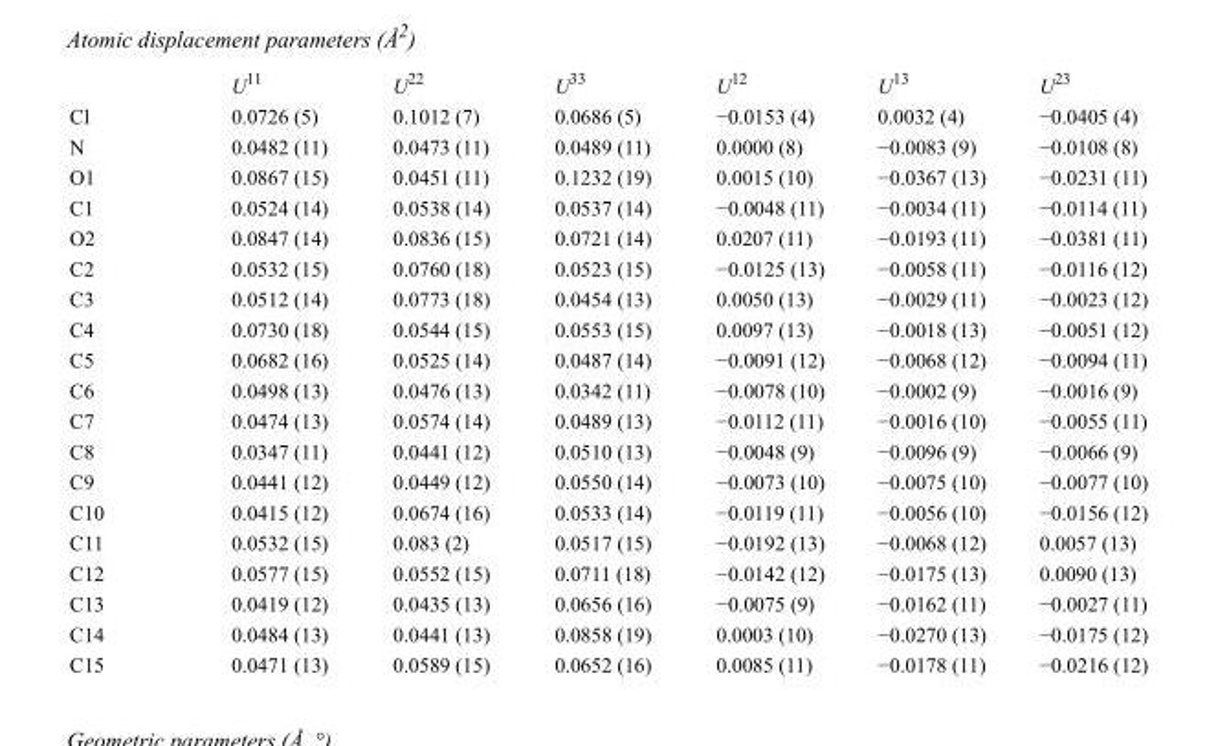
<table><thead><tr><td></td><td>U<sup>11</sup></td><td>U<sup>22</sup></td><td>U<sup>33</sup></td><td>U<sup>12</sup></td><td>U<sup>13</sup></td><td>U<sup>23</sup></td></tr></thead><tbody><tr><td>Cl</td><td>0.0726 (5)</td><td>0.1012 (7)</td><td>0.0686 (5)</td><td>−0.0153 (4)</td><td>0.0032 (4)</td><td>−0.0405 (4)</td></tr><tr><td>N</td><td>0.0482 (11)</td><td>0.0473 (11)</td><td>0.0489 (11)</td><td>0.0000 (8)</td><td>−0.0083 (9)</td><td>−0.0108 (8)</td></tr><tr><td>O1</td><td>0.0867 (15)</td><td>0.0451 (11)</td><td>0.1232 (19)</td><td>0.0015 (10)</td><td>−0.0367 (13)</td><td>−0.0231 (11)</td></tr><tr><td>C1</td><td>0.0524 (14)</td><td>0.0538 (14)</td><td>0.0537 (14)</td><td>−0.0048 (11)</td><td>−0.0034 (11)</td><td>−0.0114 (11)</td></tr><tr><td>O2</td><td>0.0847 (14)</td><td>0.0836 (15)</td><td>0.0721 (14)</td><td>0.0207 (11)</td><td>−0.0193 (11)</td><td>−0.0381 (11)</td></tr><tr><td>C2</td><td>0.0532 (15)</td><td>0.0760 (18)</td><td>0.0523 (15)</td><td>−0.0125 (13)</td><td>−0.0058 (11)</td><td>−0.0116 (12)</td></tr><tr><td>C3</td><td>0.0512 (14)</td><td>0.0773 (18)</td><td>0.0454 (13)</td><td>0.0050 (13)</td><td>−0.0029 (11)</td><td>−0.0023 (12)</td></tr><tr><td>C4</td><td>0.0730 (18)</td><td>0.0544 (15)</td><td>0.0553 (15)</td><td>0.0097 (13)</td><td>−0.0018 (13)</td><td>−0.0051 (12)</td></tr><tr><td>C5</td><td>0.0682 (16)</td><td>0.0525 (14)</td><td>0.0487 (14)</td><td>−0.0091 (12)</td><td>−0.0068 (12)</td><td>−0.0094 (11)</td></tr><tr><td>C6</td><td>0.0498 (13)</td><td>0.0476 (13)</td><td>0.0342 (11)</td><td>−0.0078 (10)</td><td>−0.0002 (9)</td><td>−0.0016 (9)</td></tr><tr><td>C7</td><td>0.0474 (13)</td><td>0.0574 (14)</td><td>0.0489 (13)</td><td>−0.0112 (11)</td><td>−0.0016 (10)</td><td>−0.0055 (11)</td></tr><tr><td>C8</td><td>0.0347 (11)</td><td>0.0441 (12)</td><td>0.0510 (13)</td><td>−0.0048 (9)</td><td>−0.0096 (9)</td><td>−0.0066 (9)</td></tr><tr><td>C9</td><td>0.0441 (12)</td><td>0.0449 (12)</td><td>0.0550 (14)</td><td>−0.0073 (10)</td><td>−0.0075 (10)</td><td>−0.0077 (10)</td></tr><tr><td>C10</td><td>0.0415 (12)</td><td>0.0674 (16)</td><td>0.0533 (14)</td><td>−0.0119 (11)</td><td>−0.0056 (10)</td><td>−0.0156 (12)</td></tr><tr><td>C11</td><td>0.0532 (15)</td><td>0.083 (2)</td><td>0.0517 (15)</td><td>−0.0192 (13)</td><td>−0.0068 (12)</td><td>0.0057 (13)</td></tr><tr><td>C12</td><td>0.0577 (15)</td><td>0.0552 (15)</td><td>0.0711 (18)</td><td>−0.0142 (12)</td><td>−0.0175 (13)</td><td>0.0090 (13)</td></tr><tr><td>C13</td><td>0.0419 (12)</td><td>0.0435 (13)</td><td>0.0656 (16)</td><td>−0.0075 (9)</td><td>−0.0162 (11)</td><td>−0.0027 (11)</td></tr><tr><td>C14</td><td>0.0484 (13)</td><td>0.0441 (13)</td><td>0.0858 (19)</td><td>0.0003 (10)</td><td>−0.0270 (13)</td><td>−0.0175 (12)</td></tr><tr><td>C15</td><td>0.0471 (13)</td><td>0.0589 (15)</td><td>0.0652 (16)</td><td>0.0085 (11)</td><td>−0.0178 (11)</td><td>−0.0216 (12)</td></tr></tbody></table>